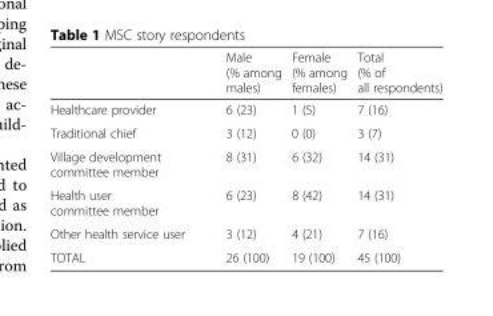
<table><thead><tr><td></td><td>Male (% among males)</td><td>Female (% among females)</td><td>Total (% of all respondents)</td></tr></thead><tbody><tr><td>Healthcare provider</td><td>6 (23)</td><td>1 (5)</td><td>7 (16)</td></tr><tr><td>Traditional chief</td><td>3 (12)</td><td>0 (0)</td><td>3 (7)</td></tr><tr><td>Village development committee member</td><td>8 (31)</td><td>6 (32)</td><td>14 (31)</td></tr><tr><td>Health user committee member</td><td>6 (23)</td><td>8 (42)</td><td>14 (31)</td></tr><tr><td>Other health service user</td><td>3 (12)</td><td>4 (21)</td><td>7 (16)</td></tr><tr><td>TOTAL</td><td>26 (100)</td><td>19 (100)</td><td>45 (100)</td></tr></tbody></table>